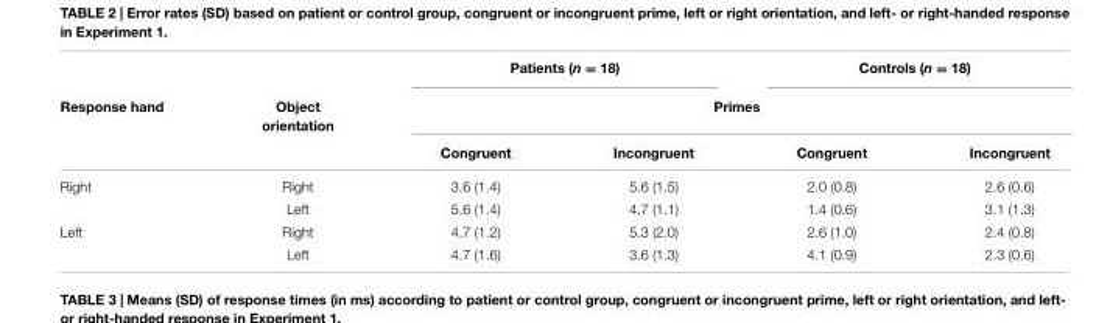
<table><thead><tr><td rowspan="3">Response hand</td><td rowspan="3">Object orientation</td><td colspan="2">Patients (n = 18)</td><td colspan="2">Controls (n = 18)</td></tr><tr><td colspan="4">Primes</td></tr><tr><td>Congruent</td><td>Incongruent</td><td>Congruent</td><td>Incongruent</td></tr></thead><tbody><tr><td rowspan="2">Right</td><td>Right</td><td>3.6 (1.4)</td><td>5.6 (1.5)</td><td>2.0 (0.8)</td><td>2.6 (0.6)</td></tr><tr><td>Left</td><td>5.6 (1.4)</td><td>4.7 (1.1)</td><td>1.4 (0.6)</td><td>3.1 (1.3)</td></tr><tr><td rowspan="2">Left</td><td>Right</td><td>4.7 (1.2)</td><td>5.3 (2.0)</td><td>2.6 (1.0)</td><td>2.4 (0.8)</td></tr><tr><td>Left</td><td>4.7 (1.6)</td><td>3.6 (1.3)</td><td>4.1 (0.9)</td><td>2.3 (0.6)</td></tr></tbody></table>